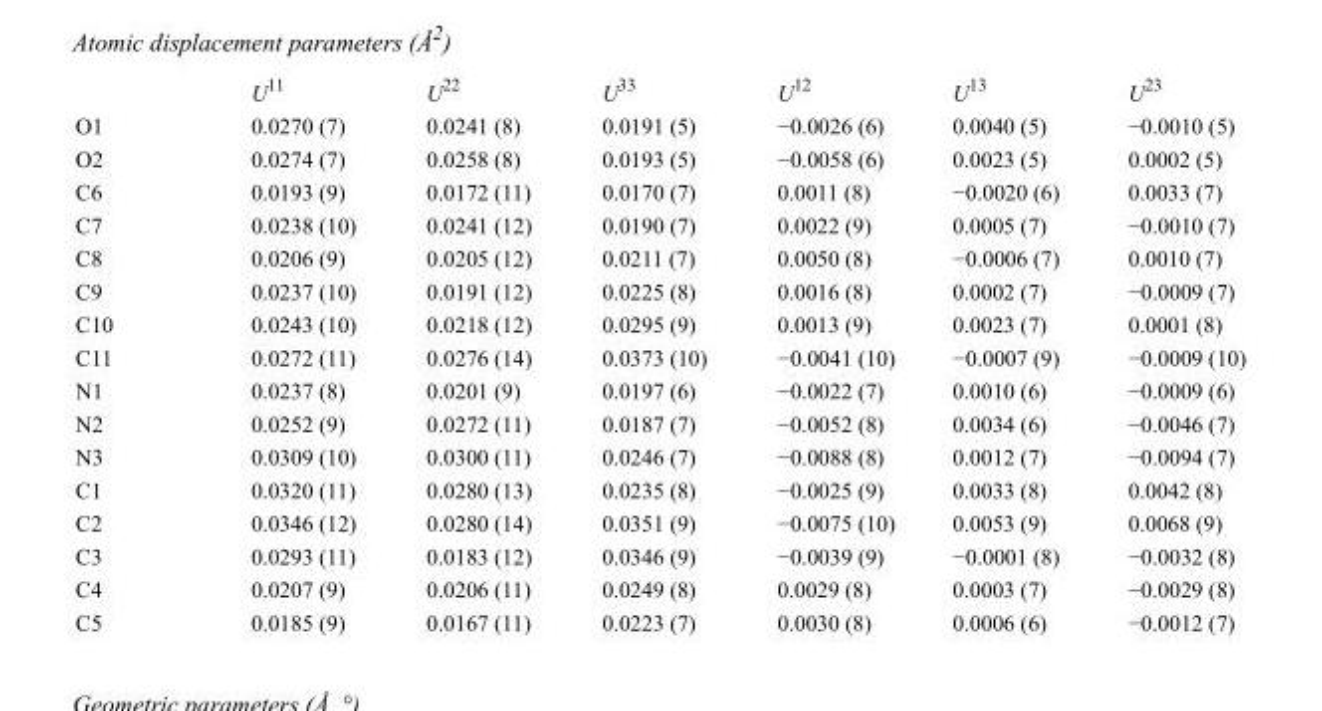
<table><thead><tr><td></td><td>U<sup>11</sup></td><td>U<sup>22</sup></td><td>U<sup>33</sup></td><td>U<sup>12</sup></td><td>U<sup>13</sup></td><td>U<sup>23</sup></td></tr></thead><tbody><tr><td>O1</td><td>0.0270 (7)</td><td>0.0241 (8)</td><td>0.0191 (5)</td><td>−0.0026 (6)</td><td>0.0040 (5)</td><td>−0.0010 (5)</td></tr><tr><td>O2</td><td>0.0274 (7)</td><td>0.0258 (8)</td><td>0.0193 (5)</td><td>−0.0058 (6)</td><td>0.0023 (5)</td><td>0.0002 (5)</td></tr><tr><td>C6</td><td>0.0193 (9)</td><td>0.0172 (11)</td><td>0.0170 (7)</td><td>0.0011 (8)</td><td>−0.0020 (6)</td><td>0.0033 (7)</td></tr><tr><td>C7</td><td>0.0238 (10)</td><td>0.0241 (12)</td><td>0.0190 (7)</td><td>0.0022 (9)</td><td>0.0005 (7)</td><td>−0.0010 (7)</td></tr><tr><td>C8</td><td>0.0206 (9)</td><td>0.0205 (12)</td><td>0.0211 (7)</td><td>0.0050 (8)</td><td>−0.0006 (7)</td><td>0.0010 (7)</td></tr><tr><td>C9</td><td>0.0237 (10)</td><td>0.0191 (12)</td><td>0.0225 (8)</td><td>0.0016 (8)</td><td>0.0002 (7)</td><td>−0.0009 (7)</td></tr><tr><td>C10</td><td>0.0243 (10)</td><td>0.0218 (12)</td><td>0.0295 (9)</td><td>0.0013 (9)</td><td>0.0023 (7)</td><td>0.0001 (8)</td></tr><tr><td>C11</td><td>0.0272 (11)</td><td>0.0276 (14)</td><td>0.0373 (10)</td><td>−0.0041 (10)</td><td>−0.0007 (9)</td><td>−0.0009 (10)</td></tr><tr><td>N1</td><td>0.0237 (8)</td><td>0.0201 (9)</td><td>0.0197 (6)</td><td>−0.0022 (7)</td><td>0.0010 (6)</td><td>−0.0009 (6)</td></tr><tr><td>N2</td><td>0.0252 (9)</td><td>0.0272 (11)</td><td>0.0187 (7)</td><td>−0.0052 (8)</td><td>0.0034 (6)</td><td>−0.0046 (7)</td></tr><tr><td>N3</td><td>0.0309 (10)</td><td>0.0300 (11)</td><td>0.0246 (7)</td><td>−0.0088 (8)</td><td>0.0012 (7)</td><td>−0.0094 (7)</td></tr><tr><td>C1</td><td>0.0320 (11)</td><td>0.0280 (13)</td><td>0.0235 (8)</td><td>−0.0025 (9)</td><td>0.0033 (8)</td><td>0.0042 (8)</td></tr><tr><td>C2</td><td>0.0346 (12)</td><td>0.0280 (14)</td><td>0.0351 (9)</td><td>−0.0075 (10)</td><td>0.0053 (9)</td><td>0.0068 (9)</td></tr><tr><td>C3</td><td>0.0293 (11)</td><td>0.0183 (12)</td><td>0.0346 (9)</td><td>−0.0039 (9)</td><td>−0.0001 (8)</td><td>−0.0032 (8)</td></tr><tr><td>C4</td><td>0.0207 (9)</td><td>0.0206 (11)</td><td>0.0249 (8)</td><td>0.0029 (8)</td><td>0.0003 (7)</td><td>−0.0029 (8)</td></tr><tr><td>C5</td><td>0.0185 (9)</td><td>0.0167 (11)</td><td>0.0223 (7)</td><td>0.0030 (8)</td><td>0.0006 (6)</td><td>−0.0012 (7)</td></tr></tbody></table>